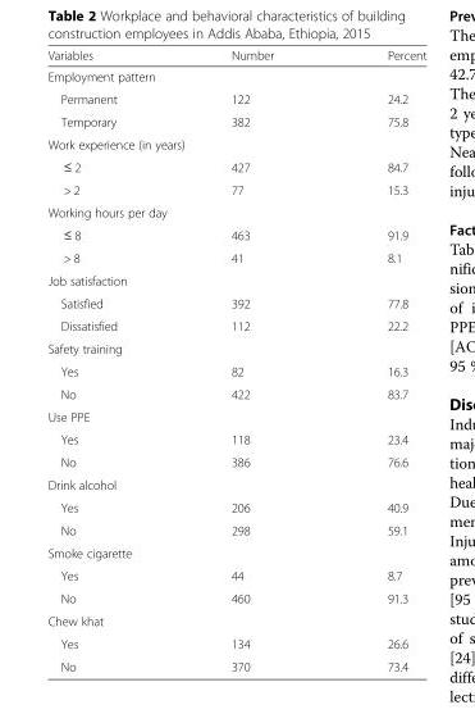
<table><thead><tr><td>Variables</td><td>Number</td><td>Percent</td></tr></thead><tbody><tr><td colspan="3">Employment pattern</td></tr><tr><td>Permanent</td><td>122</td><td>24.2</td></tr><tr><td>Temporary</td><td>382</td><td>75.8</td></tr><tr><td colspan="3">Work experience (in years)</td></tr><tr><td>≤ 2</td><td>427</td><td>84.7</td></tr><tr><td>&gt; 2</td><td>77</td><td>15.3</td></tr><tr><td colspan="3">Working hours per day</td></tr><tr><td>≤ 8</td><td>463</td><td>91.9</td></tr><tr><td>&gt; 8</td><td>41</td><td>8.1</td></tr><tr><td colspan="3">Job satisfaction</td></tr><tr><td>Satisfied</td><td>392</td><td>77.8</td></tr><tr><td>Dissatisfied</td><td>112</td><td>22.2</td></tr><tr><td colspan="3">Safety training</td></tr><tr><td>Yes</td><td>82</td><td>16.3</td></tr><tr><td>No</td><td>422</td><td>83.7</td></tr><tr><td colspan="3">Use PPE</td></tr><tr><td>Yes</td><td>118</td><td>23.4</td></tr><tr><td>No</td><td>386</td><td>76.6</td></tr><tr><td colspan="3">Drink alcohol</td></tr><tr><td>Yes</td><td>206</td><td>40.9</td></tr><tr><td>No</td><td>298</td><td>59.1</td></tr><tr><td colspan="3">Smoke cigarette</td></tr><tr><td>Yes</td><td>44</td><td>8.7</td></tr><tr><td>No</td><td>460</td><td>91.3</td></tr><tr><td colspan="3">Chew khat</td></tr><tr><td>Yes</td><td>134</td><td>26.6</td></tr><tr><td>No</td><td>370</td><td>73.4</td></tr></tbody></table>